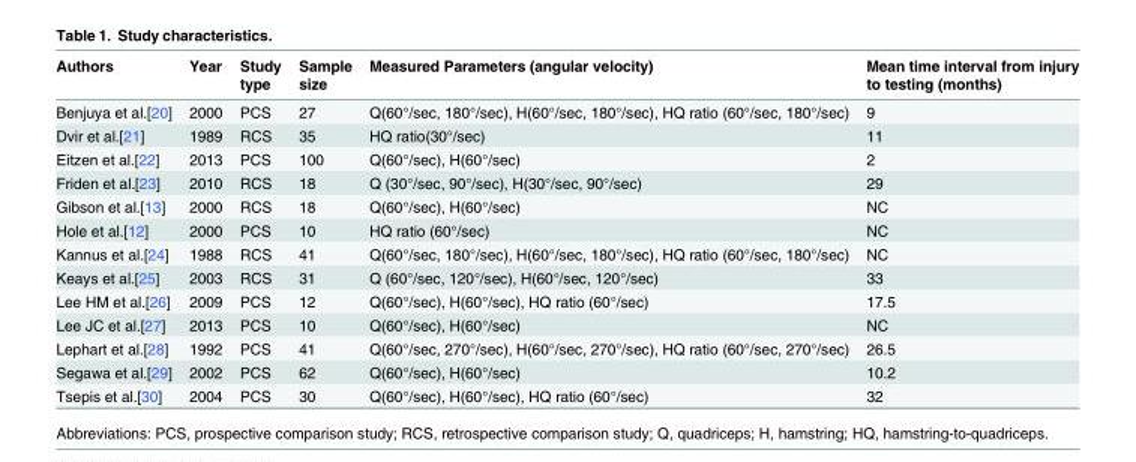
<table><thead><tr><td>Authors</td><td>Year</td><td>Study type</td><td>Sample size</td><td>Measured Parameters (angular velocity)</td><td>Mean time interval from injury to testing (months)</td></tr></thead><tbody><tr><td>Benjuya et al.[20]</td><td>2000</td><td>PCS</td><td>27</td><td>Q(60°/sec, 180°/sec), H(60°/sec, 180°/sec), HQ ratio (60°/sec, 180°/sec)</td><td>9</td></tr><tr><td>Dvir et al.[21]</td><td>1989</td><td>RCS</td><td>35</td><td>HQ ratio(30°/sec)</td><td>11</td></tr><tr><td>Eitzen et al.[22]</td><td>2013</td><td>PCS</td><td>100</td><td>Q(60°/sec), H(60°/sec)</td><td>2</td></tr><tr><td>Friden et al.[23]</td><td>2010</td><td>RCS</td><td>18</td><td>Q (30°/sec, 90°/sec), H(30°/sec, 90°/sec)</td><td>29</td></tr><tr><td>Gibson et al.[13]</td><td>2000</td><td>RCS</td><td>18</td><td>Q(60°/sec), H(60°/sec)</td><td>NC</td></tr><tr><td>Hole et al.[12]</td><td>2000</td><td>PCS</td><td>10</td><td>HQ ratio (60°/sec)</td><td>NC</td></tr><tr><td>Kannus et al.[24]</td><td>1988</td><td>RCS</td><td>41</td><td>Q(60°/sec, 180°/sec), H(60°/sec, 180°/sec), HQ ratio (60°/sec, 180°/sec)</td><td>NC</td></tr><tr><td>Keays et al.[25]</td><td>2003</td><td>RCS</td><td>31</td><td>Q (60°/sec, 120°/sec), H(60°/sec, 120°/sec)</td><td>33</td></tr><tr><td>Lee HM et al.[26]</td><td>2009</td><td>PCS</td><td>12</td><td>Q(60°/sec), H(60°/sec), HQ ratio (60°/sec)</td><td>17.5</td></tr><tr><td>Lee JC et al.[27]</td><td>2013</td><td>PCS</td><td>10</td><td>Q(60°/sec), H(60°/sec)</td><td>NC</td></tr><tr><td>Lephart et al.[28]</td><td>1992</td><td>PCS</td><td>41</td><td>Q(60°/sec, 270°/sec), H(60°/sec, 270°/sec), HQ ratio (60°/sec, 270°/sec)</td><td>26.5</td></tr><tr><td>Segawa et al.[29]</td><td>2002</td><td>PCS</td><td>62</td><td>Q(60°/sec), H(60°/sec)</td><td>10.2</td></tr><tr><td>Tsepis et al.[30]</td><td>2004</td><td>PCS</td><td>30</td><td>Q(60°/sec), H(60°/sec), HQ ratio (60°/sec)</td><td>32</td></tr></tbody></table>